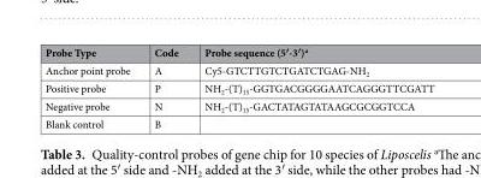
<table><thead><tr><td>Probe Type</td><td>Code</td><td>Probe sequence (5′-3′)<sup>a</sup></td></tr></thead><tbody><tr><td>Anchor point probe</td><td>A</td><td>Cy5-GTCTTGTCTGATCTGAG-NH<sub>2</sub></td></tr><tr><td>Positive probe</td><td>P</td><td>NH<sub>2</sub>-(T)<sub>15</sub>-GGTGACGGGGAATCAGGGTTCGATT</td></tr><tr><td>Negative probe</td><td>N</td><td>NH<sub>2</sub>-(T)<sub>15</sub>-GACTATAGTATAAGCGCGGTCCA</td></tr><tr><td>Blank control</td><td>B</td><td></td></tr></tbody></table>